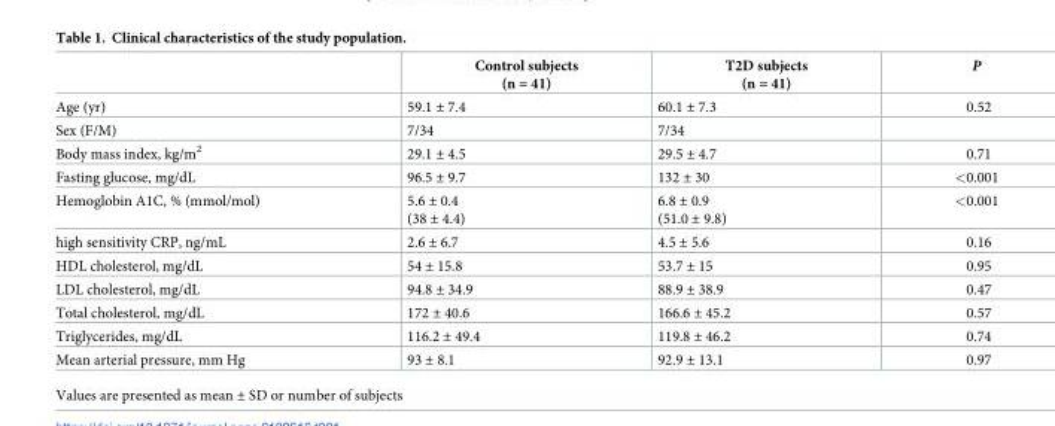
<table><thead><tr><td></td><td>Control subjects (n = 41)</td><td>T2D subjects (n = 41)</td><td>P</td></tr></thead><tbody><tr><td>Age (yr)</td><td>59.1 ± 7.4</td><td>60.1 ± 7.3</td><td>0.52</td></tr><tr><td>Sex (F/M)</td><td>7/34</td><td>7/34</td><td></td></tr><tr><td>Body mass index, kg/m<sup>2</sup></td><td>29.1 ± 4.5</td><td>29.5 ± 4.7</td><td>0.71</td></tr><tr><td>Fasting glucose, mg/dL</td><td>96.5 ± 9.7</td><td>132 ± 30</td><td>&lt;0.001</td></tr><tr><td>Hemoglobin A1C, % (mmol/mol)</td><td>5.6 ± 0.4 (38 ± 4.4)</td><td>6.8 ± 0.9 (51.0 ± 9.8)</td><td>&lt;0.001</td></tr><tr><td>high sensitivity CRP, ng/mL</td><td>2.6 ± 6.7</td><td>4.5 ± 5.6</td><td>0.16</td></tr><tr><td>HDL cholesterol, mg/dL</td><td>54 ± 15.8</td><td>53.7 ± 15</td><td>0.95</td></tr><tr><td>LDL cholesterol, mg/dL</td><td>94.8 ± 34.9</td><td>88.9 ± 38.9</td><td>0.47</td></tr><tr><td>Total cholesterol, mg/dL</td><td>172 ± 40.6</td><td>166.6 ± 45.2</td><td>0.57</td></tr><tr><td>Triglycerides, mg/dL</td><td>116.2 ± 49.4</td><td>119.8 ± 46.2</td><td>0.74</td></tr><tr><td>Mean arterial pressure, mm Hg</td><td>93 ± 8.1</td><td>92.9 ± 13.1</td><td>0.97</td></tr></tbody></table>